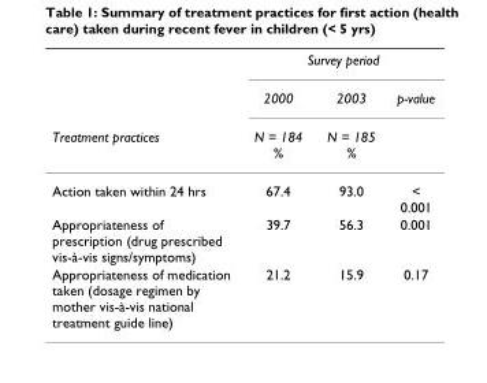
<table><thead><tr><td rowspan="3">Treatment practices</td><td colspan="3">Survey period</td></tr><tr><td rowspan="2">2000 N = 184 %</td><td rowspan="2">2003 N = 185 %</td><td rowspan="2">p-value</td></tr><tr></tr></thead><tbody><tr><td>Action taken within 24 hrs</td><td>67.4</td><td>93.0</td><td>&lt; 0.001</td></tr><tr><td>Appropriateness of prescription (drug prescribed vis-à-vis signs/symptoms)</td><td>39.7</td><td>56.3</td><td>0.001</td></tr><tr><td>Appropriateness of medication taken (dosage regimen by mother vis-à-vis national treatment guide line)</td><td>21.2</td><td>15.9</td><td>0.17</td></tr></tbody></table>